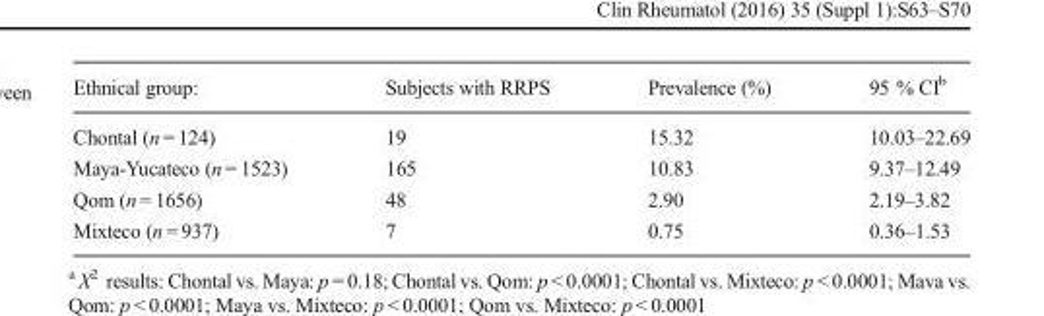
<table><thead><tr><td>Ethnical group:</td><td>Subjects with RRPS</td><td>Prevalence (%)</td><td>95 % CI<sup>b</sup></td></tr></thead><tbody><tr><td>Chontal (n = 124)</td><td>19</td><td>15.32</td><td>10.03–22.69</td></tr><tr><td>Maya-Yucateco (n = 1523)</td><td>165</td><td>10.83</td><td>9.37–12.49</td></tr><tr><td>Qom (n = 1656)</td><td>48</td><td>2.90</td><td>2.19–3.82</td></tr><tr><td>Mixteco (n = 937)</td><td>7</td><td>0.75</td><td>0.36–1.53</td></tr></tbody></table>